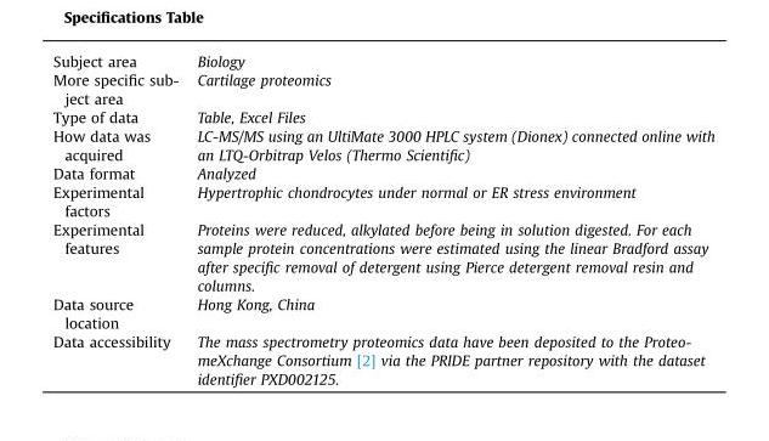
<table><tbody><tr><td>Subject area</td><td>Biology</td></tr><tr><td>More specific sub- ject area</td><td>Cartilage proteomics</td></tr><tr><td>Type of data</td><td>Table, Excel Files</td></tr><tr><td>How data was acquired</td><td>LC-MS/MS using an UltiMate 3000 HPLC system (Dionex) connected online with an LTQ-Orbitrap Velos (Thermo Scientific)</td></tr><tr><td>Data format</td><td>Analyzed</td></tr><tr><td>Experimental factors</td><td>Hypertrophic chondrocytes under normal or ER stress environment</td></tr><tr><td>Experimental features</td><td>Proteins were reduced, alkylated before being in solution digested. For each sample protein concentrations were estimated using the linear Bradford assay after specific removal of detergent using Pierce detergent removal resin and columns.</td></tr><tr><td>Data source location</td><td>Hong Kong, China</td></tr><tr><td>Data accessibility</td><td>The mass spectrometry proteomics data have been deposited to the Proteo- meXchange Consortium [2] via the PRIDE partner repository with the dataset identifier PXD002125.</td></tr></tbody></table>